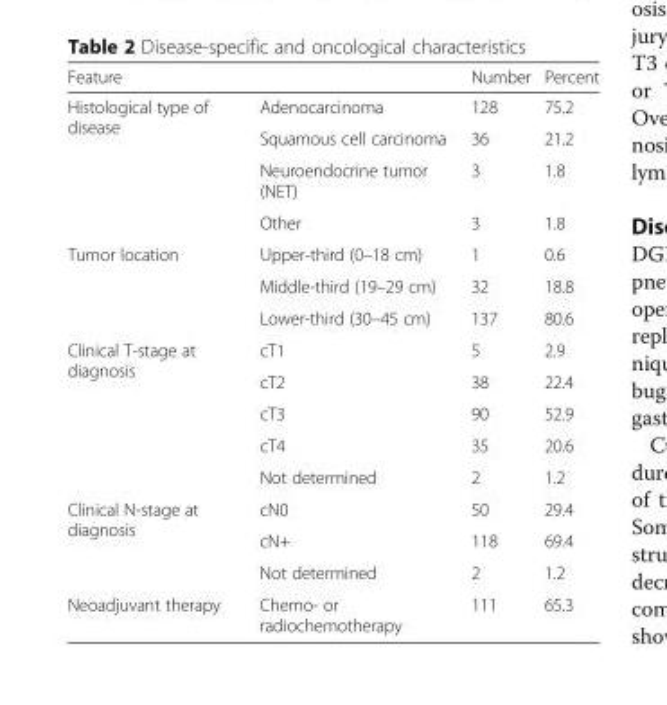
<table><thead><tr><td>Feature</td><td></td><td>Number</td><td>Percent</td></tr></thead><tbody><tr><td rowspan="4">Histological type of disease</td><td>Adenocarcinoma</td><td>128</td><td>75.2</td></tr><tr><td>Squamous cell carcinoma</td><td>36</td><td>21.2</td></tr><tr><td>Neuroendocrine tumor (NET)</td><td>3</td><td>1.8</td></tr><tr><td>Other</td><td>3</td><td>1.8</td></tr><tr><td rowspan="3">Tumor location</td><td>Upper-third (0–18 cm)</td><td>1</td><td>0.6</td></tr><tr><td>Middle-third (19–29 cm)</td><td>32</td><td>18.8</td></tr><tr><td>Lower-third (30–45 cm)</td><td>137</td><td>80.6</td></tr><tr><td rowspan="5">Clinical T-stage at diagnosis</td><td>cT1</td><td>5</td><td>2.9</td></tr><tr><td>cT2</td><td>38</td><td>22.4</td></tr><tr><td>cT3</td><td>90</td><td>52.9</td></tr><tr><td>cT4</td><td>35</td><td>20.6</td></tr><tr><td>Not determined</td><td>2</td><td>1.2</td></tr><tr><td rowspan="3">Clinical N-stage at diagnosis</td><td>cN0</td><td>50</td><td>29.4</td></tr><tr><td>cN+</td><td>118</td><td>69.4</td></tr><tr><td>Not determined</td><td>2</td><td>1.2</td></tr><tr><td>Neoadjuvant therapy</td><td>Chemo- or radiochemotherapy</td><td>111</td><td>65.3</td></tr></tbody></table>